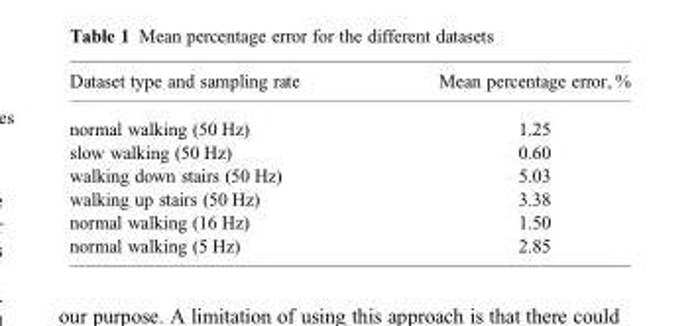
<table><thead><tr><td>Dataset type and sampling rate</td><td>Mean percentage error, %</td></tr></thead><tbody><tr><td>normal walking (50 Hz)</td><td>1.25</td></tr><tr><td>slow walking (50 Hz)</td><td>0.60</td></tr><tr><td>walking down stairs (50 Hz)</td><td>5.03</td></tr><tr><td>walking up stairs (50 Hz)</td><td>3.38</td></tr><tr><td>normal walking (16 Hz)</td><td>1.50</td></tr><tr><td>normal walking (5 Hz)</td><td>2.85</td></tr></tbody></table>